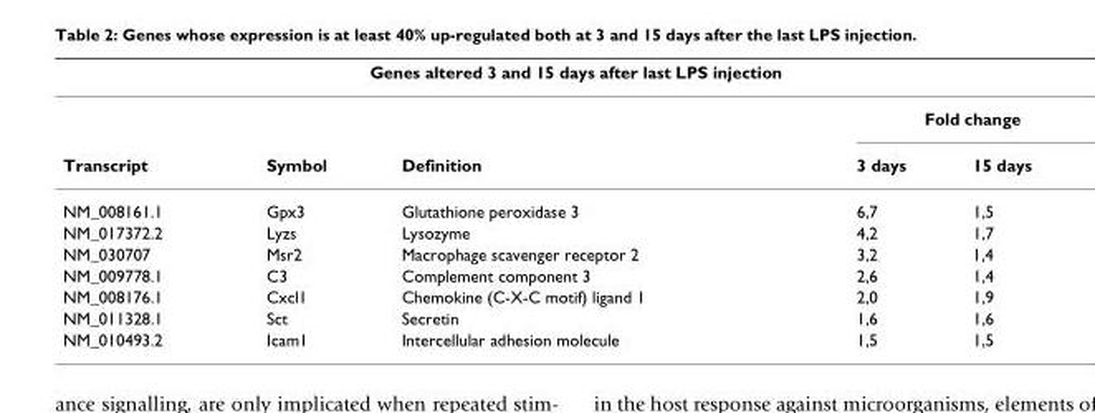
<table><thead><tr><td colspan="5">Genes altered 3 and 15 days after last LPS injection</td></tr><tr><td rowspan="2">Transcript</td><td rowspan="2">Symbol</td><td rowspan="2">Definition</td><td colspan="2">Fold change</td></tr><tr><td>3 days</td><td>15 days</td></tr></thead><tbody><tr><td>NM_008161.1</td><td>Gpx3</td><td>Glutathione peroxidase 3</td><td>6,7</td><td>1,5</td></tr><tr><td>NM_017372.2</td><td>Lyzs</td><td>Lysozyme</td><td>4,2</td><td>1,7</td></tr><tr><td>NM_030707</td><td>Msr2</td><td>Macrophage scavenger receptor 2</td><td>3,2</td><td>1,4</td></tr><tr><td>NM_009778.1</td><td>C3</td><td>Complement component 3</td><td>2,6</td><td>1,4</td></tr><tr><td>NM_008176.1</td><td>Cxcl1</td><td>Chemokine (C-X-C motif) ligand 1</td><td>2,0</td><td>1,9</td></tr><tr><td>NM_011328.1</td><td>Sct</td><td>Secretin</td><td>1,6</td><td>1,6</td></tr><tr><td>NM_010493.2</td><td>Icam1</td><td>Intercellular adhesion molecule</td><td>1,5</td><td>1,5</td></tr></tbody></table>